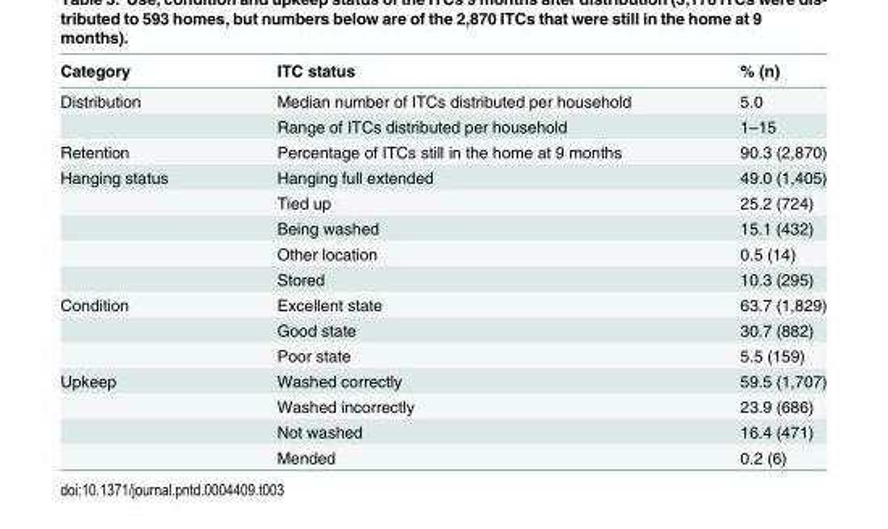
<table><thead><tr><td>Category</td><td>ITC status</td><td>% (n)</td></tr></thead><tbody><tr><td rowspan="2">Distribution</td><td>Median number of ITCs distributed per household</td><td>5.0</td></tr><tr><td>Range of ITCs distributed per household</td><td>1–15</td></tr><tr><td>Retention</td><td>Percentage of ITCs still in the home at 9 months</td><td>90.3 (2,870)</td></tr><tr><td rowspan="5">Hanging status</td><td>Hanging full extended</td><td>49.0 (1,405)</td></tr><tr><td>Tied up</td><td>25.2 (724)</td></tr><tr><td>Being washed</td><td>15.1 (432)</td></tr><tr><td>Other location</td><td>0.5 (14)</td></tr><tr><td>Stored</td><td>10.3 (295)</td></tr><tr><td rowspan="3">Condition</td><td>Excellent state</td><td>63.7 (1,829)</td></tr><tr><td>Good state</td><td>30.7 (882)</td></tr><tr><td>Poor state</td><td>5.5 (159)</td></tr><tr><td rowspan="4">Upkeep</td><td>Washed correctly</td><td>59.5 (1,707)</td></tr><tr><td>Washed incorrectly</td><td>23.9 (686)</td></tr><tr><td>Not washed</td><td>16.4 (471)</td></tr><tr><td>Mended</td><td>0.2 (6)</td></tr></tbody></table>